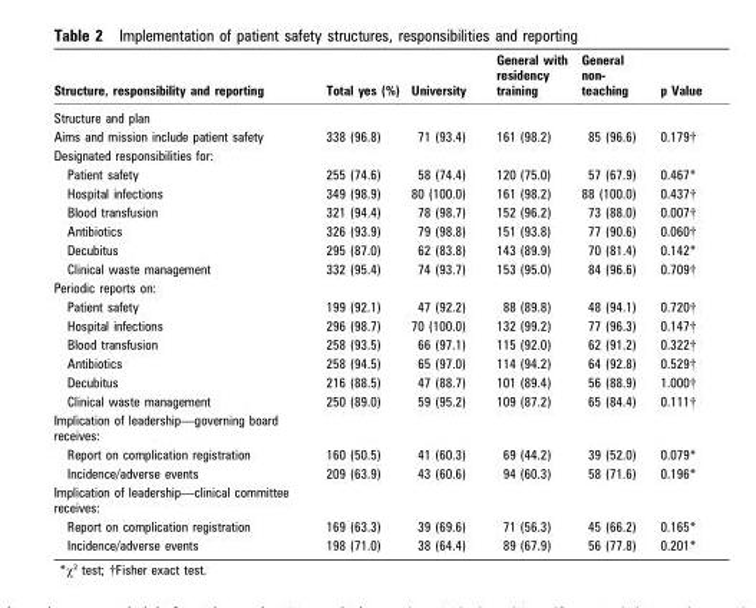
<table><thead><tr><td>Structure, responsibility and reporting</td><td>Total yes (%)</td><td>University</td><td>General with residency training</td><td>General non- teaching</td><td>p Value</td></tr></thead><tbody><tr><td colspan="6">Structure and plan</td></tr><tr><td>Aims and mission include patient safety</td><td>338 (96.8)</td><td>71 (93.4)</td><td>161 (98.2)</td><td>85 (96.6)</td><td>0.179†</td></tr><tr><td colspan="6">Designated responsibilities for:</td></tr><tr><td>Patient safety</td><td>255 (74.6)</td><td>58 (74.4)</td><td>120 (75.0)</td><td>57 (67.9)</td><td>0.467*</td></tr><tr><td>Hospital infections</td><td>349 (98.9)</td><td>80 (100.0)</td><td>161 (98.2)</td><td>88 (100.0)</td><td>0.437†</td></tr><tr><td>Blood transfusion</td><td>321 (94.4)</td><td>78 (98.7)</td><td>152 (96.2)</td><td>73 (88.0)</td><td>0.007†</td></tr><tr><td>Antibiotics</td><td>326 (93.9)</td><td>79 (98.8)</td><td>151 (93.8)</td><td>77 (90.6)</td><td>0.060†</td></tr><tr><td>Decubitus</td><td>295 (87.0)</td><td>62 (83.8)</td><td>143 (89.9)</td><td>70 (81.4)</td><td>0.142*</td></tr><tr><td>Clinical waste management</td><td>332 (95.4)</td><td>74 (93.7)</td><td>153 (95.0)</td><td>84 (96.6)</td><td>0.709†</td></tr><tr><td colspan="6">Periodic reports on:</td></tr><tr><td>Patient safety</td><td>199 (92.1)</td><td>47 (92.2)</td><td>88 (89.8)</td><td>48 (94.1)</td><td>0.720†</td></tr><tr><td>Hospital infections</td><td>296 (98.7)</td><td>70 (100.0)</td><td>132 (99.2)</td><td>77 (96.3)</td><td>0.147†</td></tr><tr><td>Blood transfusion</td><td>258 (93.5)</td><td>66 (97.1)</td><td>115 (92.0)</td><td>62 (91.2)</td><td>0.322†</td></tr><tr><td>Antibiotics</td><td>258 (94.5)</td><td>65 (97.0)</td><td>114 (94.2)</td><td>64 (92.8)</td><td>0.529†</td></tr><tr><td>Decubitus</td><td>216 (88.5)</td><td>47 (88.7)</td><td>101 (89.4)</td><td>56 (88.9)</td><td>1.000†</td></tr><tr><td>Clinical waste management</td><td>250 (89.0)</td><td>59 (95.2)</td><td>109 (87.2)</td><td>65 (84.4)</td><td>0.111†</td></tr><tr><td colspan="6">Implication of leadership—governing board receives:</td></tr><tr><td>Report on complication registration</td><td>160 (50.5)</td><td>41 (60.3)</td><td>69 (44.2)</td><td>39 (52.0)</td><td>0.079*</td></tr><tr><td>Incidence/adverse events</td><td>209 (63.9)</td><td>43 (60.6)</td><td>94 (60.3)</td><td>58 (71.6)</td><td>0.196*</td></tr><tr><td colspan="6">Implication of leadership—clinical committee receives:</td></tr><tr><td>Report on complication registration</td><td>169 (63.3)</td><td>39 (69.6)</td><td>71 (56.3)</td><td>45 (66.2)</td><td>0.165*</td></tr><tr><td>Incidence/adverse events</td><td>198 (71.0)</td><td>38 (64.4)</td><td>89 (67.9)</td><td>56 (77.8)</td><td>0.201*</td></tr></tbody></table>